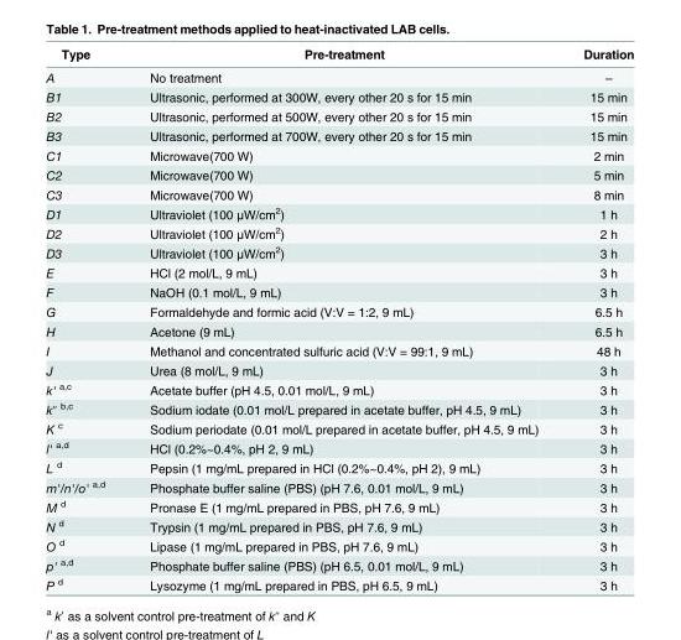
<table><thead><tr><td>Type</td><td>Pre-treatment</td><td>Duration</td></tr></thead><tbody><tr><td>A</td><td>No treatment</td><td>–</td></tr><tr><td>B1</td><td>Ultrasonic, performed at 300W, every other 20 s for 15 min</td><td>15 min</td></tr><tr><td>B2</td><td>Ultrasonic, performed at 500W, every other 20 s for 15 min</td><td>15 min</td></tr><tr><td>B3</td><td>Ultrasonic, performed at 700W, every other 20 s for 15 min</td><td>15 min</td></tr><tr><td>C1</td><td>Microwave(700 W)</td><td>2 min</td></tr><tr><td>C2</td><td>Microwave(700 W)</td><td>5 min</td></tr><tr><td>C3</td><td>Microwave(700 W)</td><td>8 min</td></tr><tr><td>D1</td><td>Ultraviolet (100 μW/cm<sup>2</sup>)</td><td>1 h</td></tr><tr><td>D2</td><td>Ultraviolet (100 μW/cm<sup>2</sup>)</td><td>2 h</td></tr><tr><td>D3</td><td>Ultraviolet (100 μW/cm<sup>2</sup>)</td><td>3 h</td></tr><tr><td>E</td><td>HCl (2 mol/L, 9 mL)</td><td>3 h</td></tr><tr><td>F</td><td>NaOH (0.1 mol/L, 9 mL)</td><td>3 h</td></tr><tr><td>G</td><td>Formaldehyde and formic acid (V:V = 1:2, 9 mL)</td><td>6.5 h</td></tr><tr><td>H</td><td>Acetone (9 mL)</td><td>6.5 h</td></tr><tr><td>I</td><td>Methanol and concentrated sulfuric acid (V:V = 99:1, 9 mL)</td><td>48 h</td></tr><tr><td>J</td><td>Urea (8 mol/L, 9 mL)</td><td>3 h</td></tr><tr><td>k&#x27; <sup>a,c</sup></td><td>Acetate buffer (pH 4.5, 0.01 mol/L, 9 mL)</td><td>3 h</td></tr><tr><td>k″ <sup>b,c</sup></td><td>Sodium iodate (0.01 mol/L prepared in acetate buffer, pH 4.5, 9 mL)</td><td>3 h</td></tr><tr><td>K <sup>c</sup></td><td>Sodium periodate (0.01 mol/L prepared in acetate buffer, pH 4.5, 9 mL)</td><td>3 h</td></tr><tr><td>l&#x27; <sup>a,d</sup></td><td>HCl (0.2%~0.4%, pH 2, 9 mL)</td><td>3 h</td></tr><tr><td>L <sup>d</sup></td><td>Pepsin (1 mg/mL prepared in HCl (0.2%~0.4%, pH 2), 9 mL)</td><td>3 h</td></tr><tr><td>m&#x27;/n&#x27;/o&#x27; <sup>a,d</sup></td><td>Phosphate buffer saline (PBS) (pH 7.6, 0.01 mol/L, 9 mL)</td><td>3 h</td></tr><tr><td>M <sup>d</sup></td><td>Pronase E (1 mg/mL prepared in PBS, pH 7.6, 9 mL)</td><td>3 h</td></tr><tr><td>N <sup>d</sup></td><td>Trypsin (1 mg/mL prepared in PBS, pH 7.6, 9 mL)</td><td>3 h</td></tr><tr><td>O <sup>d</sup></td><td>Lipase (1 mg/mL prepared in PBS, pH 7.6, 9 mL)</td><td>3 h</td></tr><tr><td>p&#x27; <sup>a,d</sup></td><td>Phosphate buffer saline (PBS) (pH 6.5, 0.01 mol/L, 9 mL)</td><td>3 h</td></tr><tr><td>P <sup>d</sup></td><td>Lysozyme (1 mg/mL prepared in PBS, pH 6.5, 9 mL)</td><td>3 h</td></tr></tbody></table>